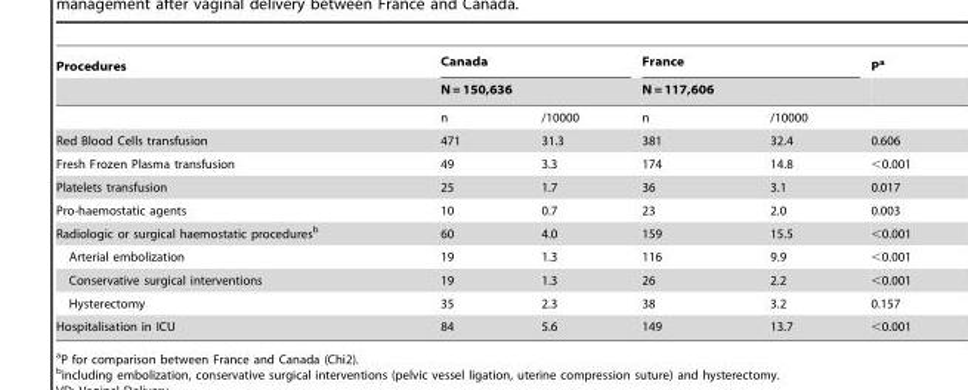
<table><thead><tr><td rowspan="3">Procedures</td><td rowspan="2" colspan="2">Canada N = 150,636</td><td rowspan="2" colspan="2">France N = 117,606</td><td rowspan="3">P<sup>a</sup></td></tr><tr></tr><tr><td>n</td><td>/10000</td><td>n</td><td>/10000</td></tr></thead><tbody><tr><td>Red Blood Cells transfusion</td><td>471</td><td>31.3</td><td>381</td><td>32.4</td><td>0.606</td></tr><tr><td>Fresh Frozen Plasma transfusion</td><td>49</td><td>3.3</td><td>174</td><td>14.8</td><td>&lt;0.001</td></tr><tr><td>Platelets transfusion</td><td>25</td><td>1.7</td><td>36</td><td>3.1</td><td>0.017</td></tr><tr><td>Pro-haemostatic agents</td><td>10</td><td>0.7</td><td>23</td><td>2.0</td><td>0.003</td></tr><tr><td>Radiologic or surgical haemostatic procedures<sup>b</sup></td><td>60</td><td>4.0</td><td>159</td><td>15.5</td><td>&lt;0.001</td></tr><tr><td>Arterial embolization</td><td>19</td><td>1.3</td><td>116</td><td>9.9</td><td>&lt;0.001</td></tr><tr><td>Conservative surgical interventions</td><td>19</td><td>1.3</td><td>26</td><td>2.2</td><td>&lt;0.001</td></tr><tr><td>Hysterectomy</td><td>35</td><td>2.3</td><td>38</td><td>3.2</td><td>0.157</td></tr><tr><td>Hospitalisation in ICU</td><td>84</td><td>5.6</td><td>149</td><td>13.7</td><td>&lt;0.001</td></tr></tbody></table>